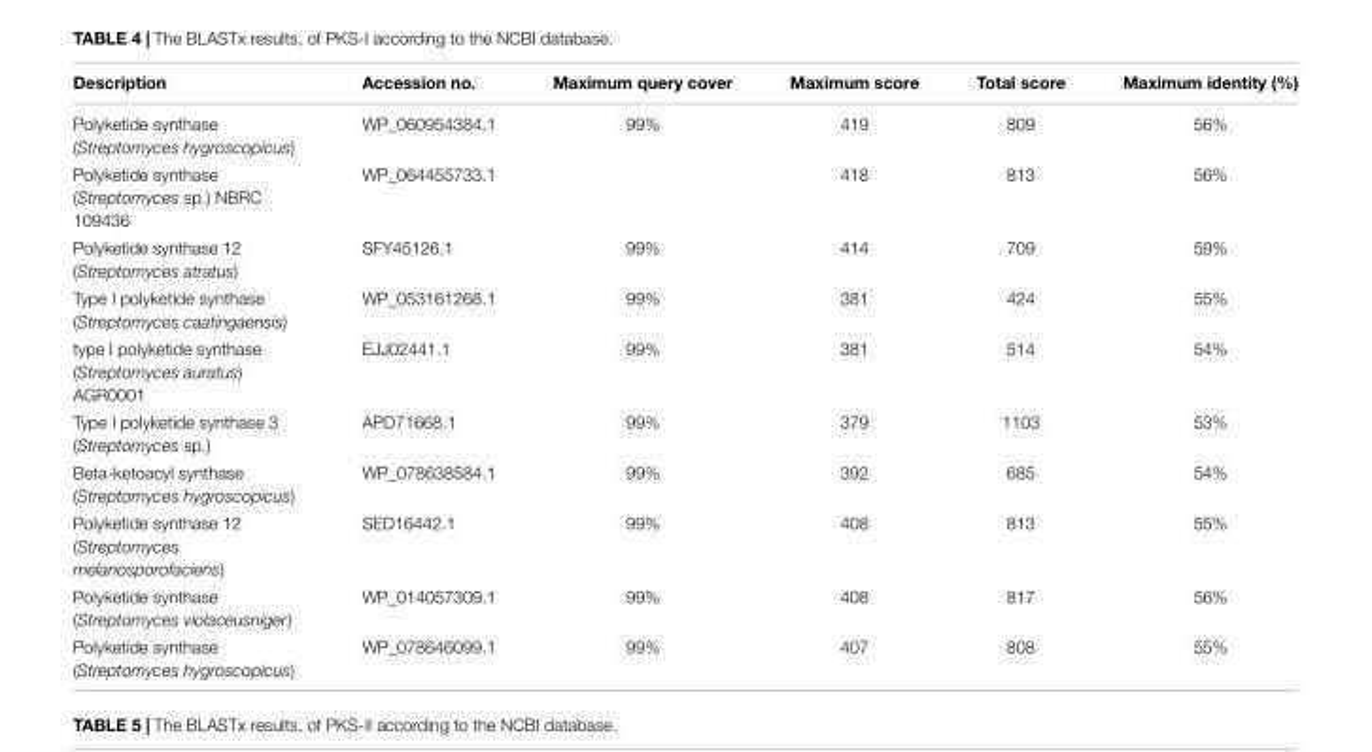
<table><thead><tr><td>Description</td><td>Accession no.</td><td>Maximum query cover</td><td>Maximum score</td><td>Total score</td><td>Maximum identity (%)</td></tr></thead><tbody><tr><td>Polyketide synthase (Streptomyces hygroscopicus)</td><td>WP_060954384.1</td><td>99%</td><td>419</td><td>809</td><td>56%</td></tr><tr><td>Polyketide synthase (Streptomyces sp.) NBRC 109436</td><td>WP_064455733.1</td><td></td><td>418</td><td>813</td><td>56%</td></tr><tr><td>Polyketide synthase 12 (Streptomyces atratus)</td><td>SFY45126.1</td><td>99%</td><td>414</td><td>709</td><td>59%</td></tr><tr><td>Type I polyketide synthase (Streptomyces caatingaensis)</td><td>WP_053161268.1</td><td>99%</td><td>381</td><td>424</td><td>55%</td></tr><tr><td>type I polyketide synthase (Streptomyces auratus) AGR0001</td><td>EJJ02441.1</td><td>99%</td><td>381</td><td>514</td><td>54%</td></tr><tr><td>Type I polyketide synthase 3 (Streptomyces sp.)</td><td>APD71668.1</td><td>99%</td><td>379</td><td>1103</td><td>53%</td></tr><tr><td>Beta-ketoacyl synthase (Streptomyces hygroscopicus)</td><td>WP_078638584.1</td><td>99%</td><td>392</td><td>685</td><td>54%</td></tr><tr><td>Polyketide synthase 12 (Streptomyces melanosporofaciens)</td><td>SED16442.1</td><td>99%</td><td>408</td><td>813</td><td>55%</td></tr><tr><td>Polyketide synthase (Streptomyces violaceusniger)</td><td>WP_014057309.1</td><td>99%</td><td>408</td><td>817</td><td>56%</td></tr><tr><td>Polyketide synthase (Streptomyces hygroscopicus)</td><td>WP_078646099.1</td><td>99%</td><td>407</td><td>808</td><td>55%</td></tr></tbody></table>